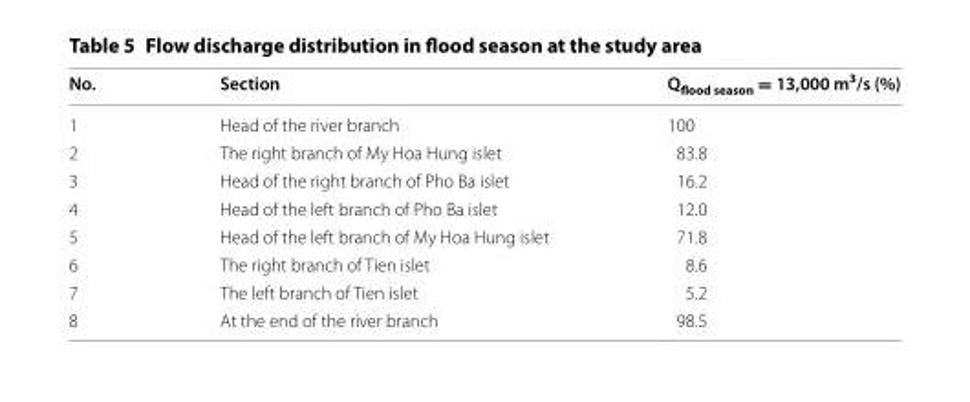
<table><thead><tr><td>No.</td><td>Section</td><td>Q<sub>flood season</sub> = 13,000 m<sup>3</sup>/s (%)</td></tr></thead><tbody><tr><td>1</td><td>Head of the river branch</td><td>100</td></tr><tr><td>2</td><td>The right branch of My Hoa Hung islet</td><td>83.8</td></tr><tr><td>3</td><td>Head of the right branch of Pho Ba islet</td><td>16.2</td></tr><tr><td>4</td><td>Head of the left branch of Pho Ba islet</td><td>12.0</td></tr><tr><td>5</td><td>Head of the left branch of My Hoa Hung islet</td><td>71.8</td></tr><tr><td>6</td><td>The right branch of Tien islet</td><td>8.6</td></tr><tr><td>7</td><td>The left branch of Tien islet</td><td>5.2</td></tr><tr><td>8</td><td>At the end of the river branch</td><td>98.5</td></tr></tbody></table>